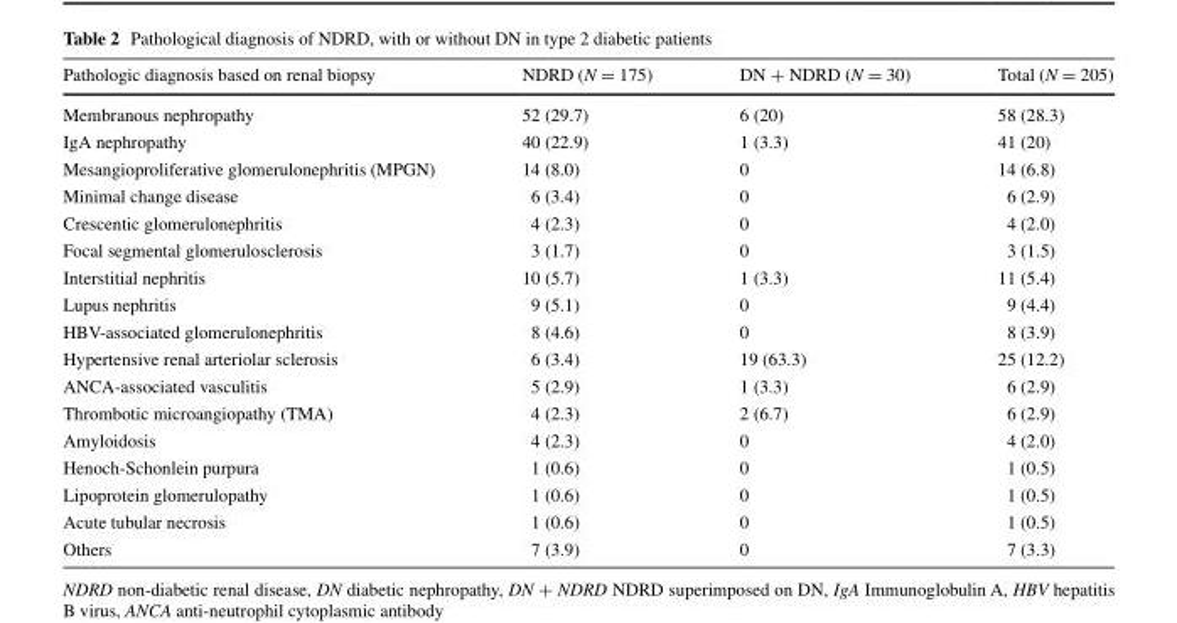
<table><thead><tr><td>Pathologic diagnosis based on renal biopsy</td><td>NDRD (N = 175)</td><td>DN + NDRD (N = 30)</td><td>Total (N = 205)</td></tr></thead><tbody><tr><td>Membranous nephropathy</td><td>52 (29.7)</td><td>6 (20)</td><td>58 (28.3)</td></tr><tr><td>IgA nephropathy</td><td>40 (22.9)</td><td>1 (3.3)</td><td>41 (20)</td></tr><tr><td>Mesangioproliferative glomerulonephritis (MPGN)</td><td>14 (8.0)</td><td>0</td><td>14 (6.8)</td></tr><tr><td>Minimal change disease</td><td>6 (3.4)</td><td>0</td><td>6 (2.9)</td></tr><tr><td>Crescentic glomerulonephritis</td><td>4 (2.3)</td><td>0</td><td>4 (2.0)</td></tr><tr><td>Focal segmental glomerulosclerosis</td><td>3 (1.7)</td><td>0</td><td>3 (1.5)</td></tr><tr><td>Interstitial nephritis</td><td>10 (5.7)</td><td>1 (3.3)</td><td>11 (5.4)</td></tr><tr><td>Lupus nephritis</td><td>9 (5.1)</td><td>0</td><td>9 (4.4)</td></tr><tr><td>HBV-associated glomerulonephritis</td><td>8 (4.6)</td><td>0</td><td>8 (3.9)</td></tr><tr><td>Hypertensive renal arteriolar sclerosis</td><td>6 (3.4)</td><td>19 (63.3)</td><td>25 (12.2)</td></tr><tr><td>ANCA-associated vasculitis</td><td>5 (2.9)</td><td>1 (3.3)</td><td>6 (2.9)</td></tr><tr><td>Thrombotic microangiopathy (TMA)</td><td>4 (2.3)</td><td>2 (6.7)</td><td>6 (2.9)</td></tr><tr><td>Amyloidosis</td><td>4 (2.3)</td><td>0</td><td>4 (2.0)</td></tr><tr><td>Henoch-Schonlein purpura</td><td>1 (0.6)</td><td>0</td><td>1 (0.5)</td></tr><tr><td>Lipoprotein glomerulopathy</td><td>1 (0.6)</td><td>0</td><td>1 (0.5)</td></tr><tr><td>Acute tubular necrosis</td><td>1 (0.6)</td><td>0</td><td>1 (0.5)</td></tr><tr><td>Others</td><td>7 (3.9)</td><td>0</td><td>7 (3.3)</td></tr></tbody></table>